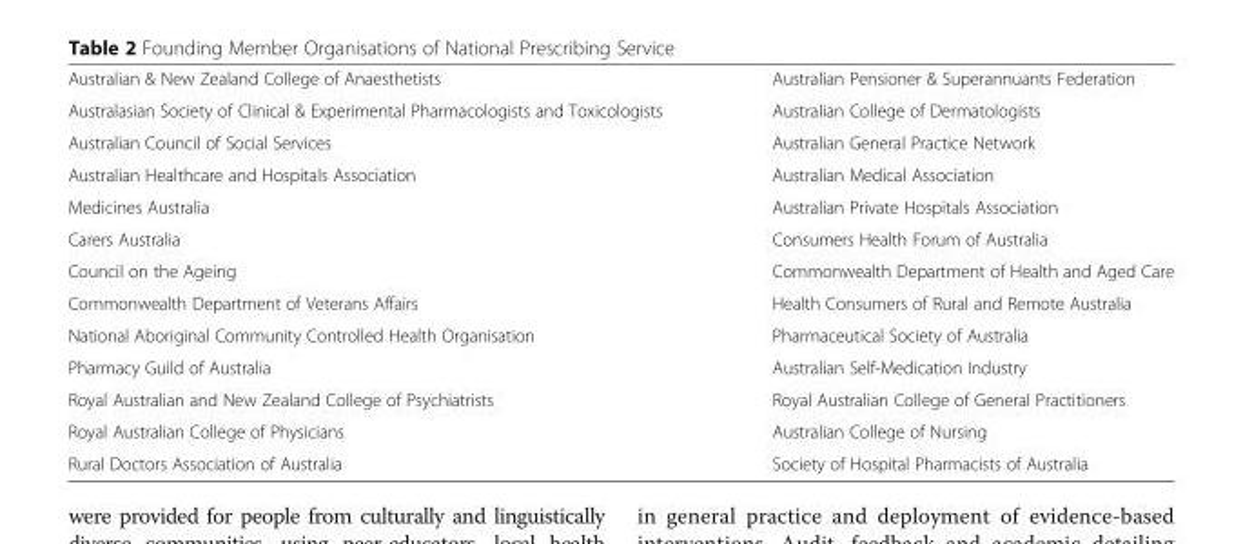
<table><tbody><tr><td>Australian &amp; New Zealand College of Anaesthetists</td><td>Australian Pensioner &amp; Superannuants Federation</td></tr><tr><td>Australasian Society of Clinical &amp; Experimental Pharmacologists and Toxicologists</td><td>Australian College of Dermatologists</td></tr><tr><td>Australian Council of Social Services</td><td>Australian General Practice Network</td></tr><tr><td>Australian Healthcare and Hospitals Association</td><td>Australian Medical Association</td></tr><tr><td>Medicines Australia</td><td>Australian Private Hospitals Association</td></tr><tr><td>Carers Australia</td><td>Consumers Health Forum of Australia</td></tr><tr><td>Council on the Ageing</td><td>Commonwealth Department of Health and Aged Care</td></tr><tr><td>Commonwealth Department of Veterans Affairs</td><td>Health Consumers of Rural and Remote Australia</td></tr><tr><td>National Aboriginal Community Controlled Health Organisation</td><td>Pharmaceutical Society of Australia</td></tr><tr><td>Pharmacy Guild of Australia</td><td>Australian Self-Medication Industry</td></tr><tr><td>Royal Australian and New Zealand College of Psychiatrists</td><td>Royal Australian College of General Practitioners</td></tr><tr><td>Royal Australian College of Physicians</td><td>Australian College of Nursing</td></tr><tr><td>Rural Doctors Association of Australia</td><td>Society of Hospital Pharmacists of Australia</td></tr></tbody></table>